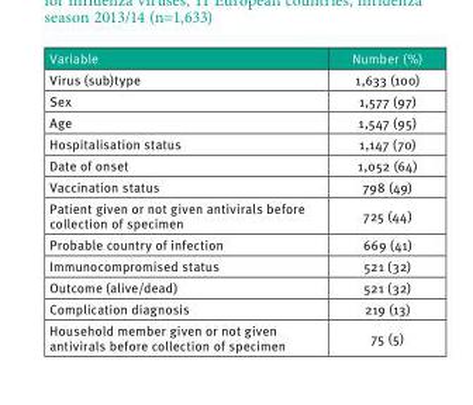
<table><thead><tr><td>Variable</td><td>Number (%)</td></tr></thead><tbody><tr><td>Virus (sub)type</td><td>1,633 (100)</td></tr><tr><td>Sex</td><td>1,577 (97)</td></tr><tr><td>Age</td><td>1,547 (95)</td></tr><tr><td>Hospitalisation status</td><td>1,147 (70)</td></tr><tr><td>Date of onset</td><td>1,052 (64)</td></tr><tr><td>Vaccination status</td><td>798 (49)</td></tr><tr><td>Patient given or not given antivirals before collection of specimen</td><td>725 (44)</td></tr><tr><td>Probable country of infection</td><td>669 (41)</td></tr><tr><td>Immunocompromised status</td><td>521 (32)</td></tr><tr><td>Outcome (alive/dead)</td><td>521 (32)</td></tr><tr><td>Complication diagnosis</td><td>219 (13)</td></tr><tr><td>Household member given or not given antivirals before collection of specimen</td><td>75 (5)</td></tr></tbody></table>